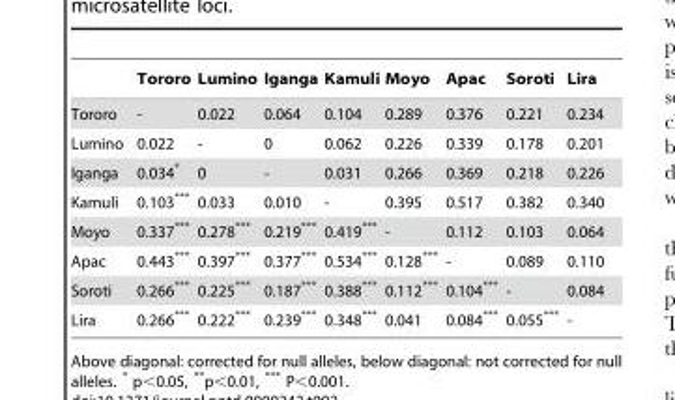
<table><thead><tr><td></td><td>Tororo</td><td>Lumino</td><td>Iganga</td><td>Kamuli</td><td>Moyo</td><td>Apac</td><td>Soroti</td><td>Lira</td></tr></thead><tbody><tr><td>Tororo</td><td>-</td><td>0.022</td><td>0.064</td><td>0.104</td><td>0.289</td><td>0.376</td><td>0.221</td><td>0.234</td></tr><tr><td>Lumino</td><td>0.022</td><td>-</td><td>0</td><td>0.062</td><td>0.226</td><td>0.339</td><td>0.178</td><td>0.201</td></tr><tr><td>Iganga</td><td>0.034*</td><td>0</td><td>-</td><td>0.031</td><td>0.266</td><td>0.369</td><td>0.218</td><td>0.226</td></tr><tr><td>Kamuli</td><td>0.103***</td><td>0.033</td><td>0.010</td><td>-</td><td>0.395</td><td>0.517</td><td>0.382</td><td>0.340</td></tr><tr><td>Moyo</td><td>0.337***</td><td>0.278***</td><td>0.219***</td><td>0.419***</td><td>-</td><td>0.112</td><td>0.103</td><td>0.064</td></tr><tr><td>Apac</td><td>0.443***</td><td>0.397***</td><td>0.377***</td><td>0.534***</td><td>0.128***</td><td>-</td><td>0.089</td><td>0.110</td></tr><tr><td>Soroti</td><td>0.266***</td><td>0.225***</td><td>0.187***</td><td>0.388***</td><td>0.112***</td><td>0.104***</td><td>-</td><td>0.084</td></tr><tr><td>Lira</td><td>0.266***</td><td>0.222***</td><td>0.239***</td><td>0.348***</td><td>0.041</td><td>0.084***</td><td>0.055***</td><td>-</td></tr></tbody></table>